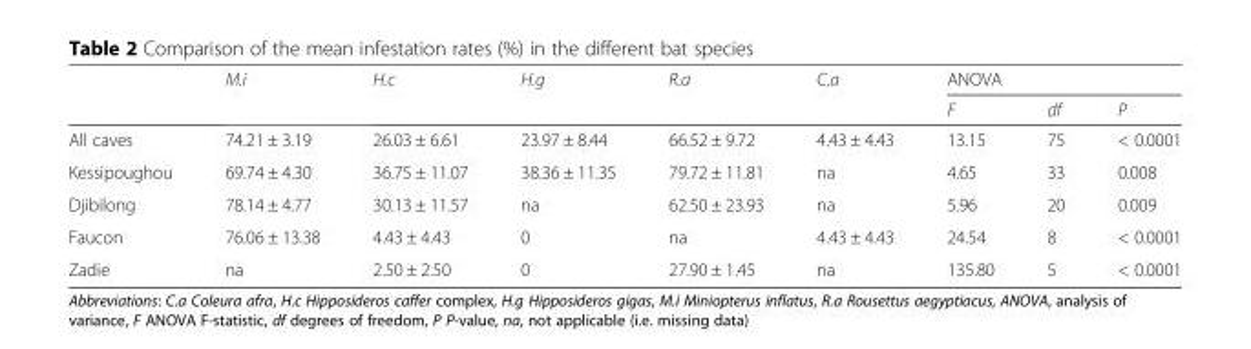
<table><thead><tr><td rowspan="2"></td><td rowspan="2">M.i</td><td rowspan="2">H.c</td><td rowspan="2">H.g</td><td rowspan="2">R.a</td><td rowspan="2">C.a</td><td colspan="3">ANOVA</td></tr><tr><td>F</td><td>df</td><td>P</td></tr></thead><tbody><tr><td>All caves</td><td>74.21 ± 3.19</td><td>26.03 ± 6.61</td><td>23.97 ± 8.44</td><td>66.52 ± 9.72</td><td>4.43 ± 4.43</td><td>13.15</td><td>75</td><td>&lt; 0.0001</td></tr><tr><td>Kessipoughou</td><td>69.74 ± 4.30</td><td>36.75 ± 11.07</td><td>38.36 ± 11.35</td><td>79.72 ± 11.81</td><td>na</td><td>4.65</td><td>33</td><td>0.008</td></tr><tr><td>Djibilong</td><td>78.14 ± 4.77</td><td>30.13 ± 11.57</td><td>na</td><td>62.50 ± 23.93</td><td>na</td><td>5.96</td><td>20</td><td>0.009</td></tr><tr><td>Faucon</td><td>76.06 ± 13.38</td><td>4.43 ± 4.43</td><td>0</td><td>na</td><td>4.43 ± 4.43</td><td>24.54</td><td>8</td><td>&lt; 0.0001</td></tr><tr><td>Zadie</td><td>na</td><td>2.50 ± 2.50</td><td>0</td><td>27.90 ± 1.45</td><td>na</td><td>135.80</td><td>5</td><td>&lt; 0.0001</td></tr></tbody></table>